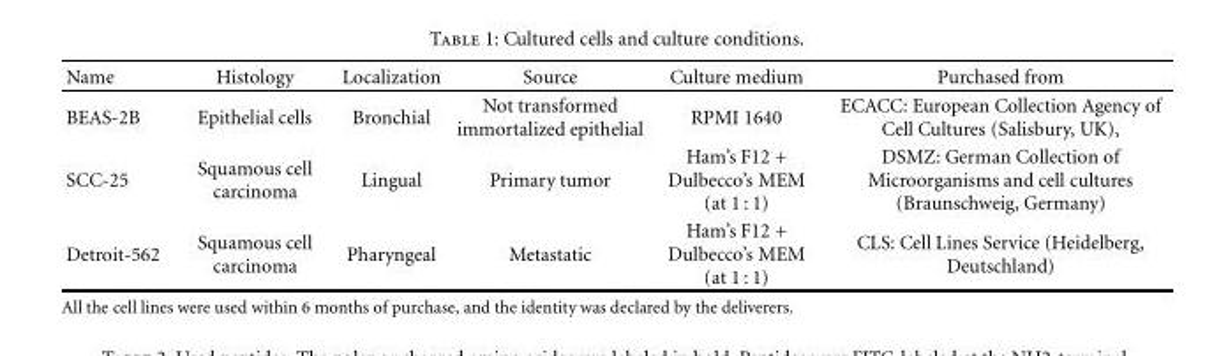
<table><thead><tr><td>Name</td><td>Histology</td><td>Localization</td><td>Source</td><td>Culture medium</td><td>Purchased from</td></tr></thead><tbody><tr><td>BEAS-2B</td><td>Epithelial cells</td><td>Bronchial</td><td>Not transformed immortalized epithelial</td><td>RPMI 1640</td><td>ECACC: European Collection Agency of Cell Cultures (Salisbury, UK),</td></tr><tr><td>SCC-25</td><td>Squamous cell carcinoma</td><td>Lingual</td><td>Primary tumor</td><td>Ham’s F12 + Dulbecco’s MEM (at 1 : 1)</td><td>DSMZ: German Collection of Microorganisms and cell cultures (Braunschweig, Germany)</td></tr><tr><td>Detroit-562</td><td>Squamous cell carcinoma</td><td>Pharyngeal</td><td>Metastatic</td><td>Ham’s F12 + Dulbecco’s MEM (at 1 : 1)</td><td>CLS: Cell Lines Service (Heidelberg, Deutschland)</td></tr></tbody></table>